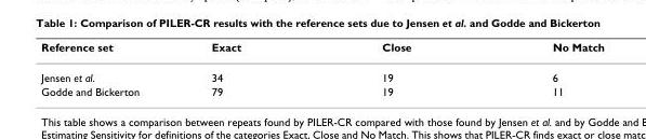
<table><thead><tr><td>Reference set</td><td>Exact</td><td>Close</td><td>No Match</td></tr></thead><tbody><tr><td>Jensen et al.</td><td>34</td><td>19</td><td>6</td></tr><tr><td>Godde and Bickerton</td><td>79</td><td>19</td><td>11</td></tr></tbody></table>